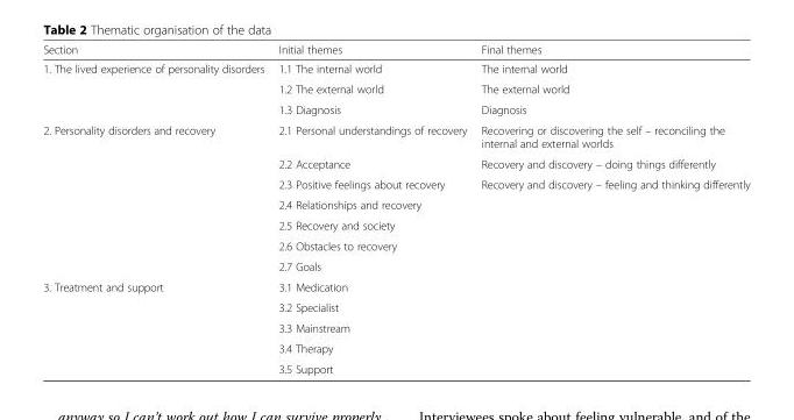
<table><thead><tr><td>Section</td><td>Initial themes</td><td>Final themes</td></tr></thead><tbody><tr><td rowspan="3">1. The lived experience of personality disorders</td><td>1.1 The internal world</td><td>The internal world</td></tr><tr><td>1.2 The external world</td><td>The external world</td></tr><tr><td>1.3 Diagnosis</td><td>Diagnosis</td></tr><tr><td rowspan="7">2. Personality disorders and recovery</td><td>2.1 Personal understandings of recovery</td><td>Recovering or discovering the self – reconciling the internal and external worlds</td></tr><tr><td>2.2 Acceptance</td><td>Recovery and discovery – doing things differently</td></tr><tr><td>2.3 Positive feelings about recovery</td><td>Recovery and discovery – feeling and thinking differently</td></tr><tr><td>2.4 Relationships and recovery</td><td></td></tr><tr><td>2.5 Recovery and society</td><td></td></tr><tr><td>2.6 Obstacles to recovery</td><td></td></tr><tr><td>2.7 Goals</td><td></td></tr><tr><td rowspan="5">3. Treatment and support</td><td>3.1 Medication</td><td></td></tr><tr><td>3.2 Specialist</td><td></td></tr><tr><td>3.3 Mainstream</td><td></td></tr><tr><td>3.4 Therapy</td><td></td></tr><tr><td>3.5 Support</td><td></td></tr></tbody></table>